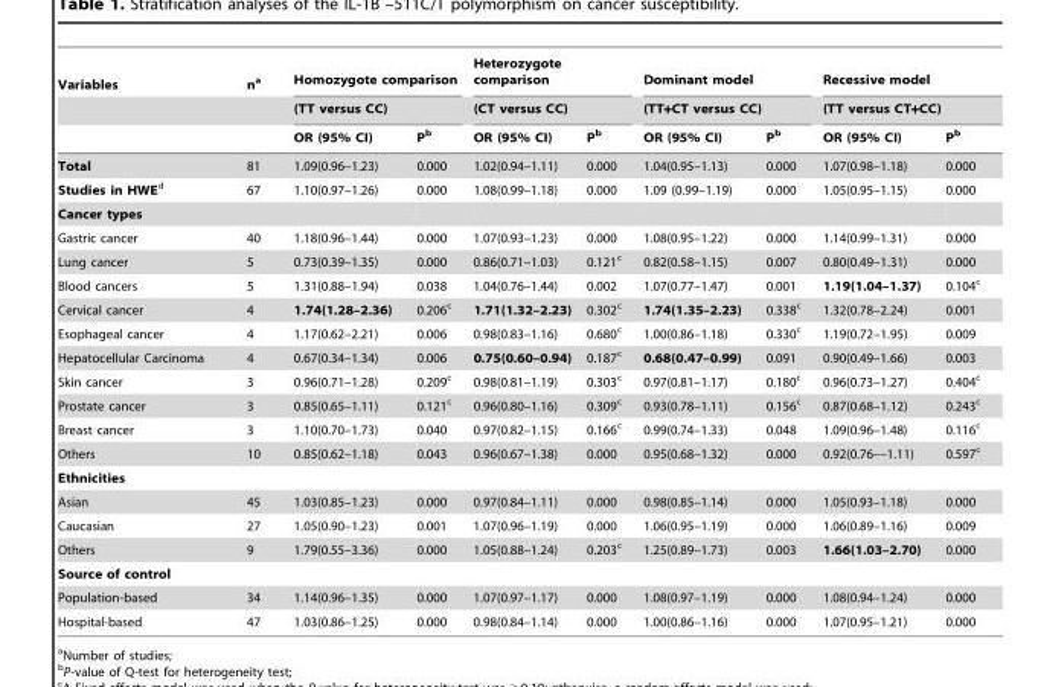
<table><thead><tr><td rowspan="3">Variables</td><td rowspan="3">n<sup>a</sup></td><td rowspan="2" colspan="2">Homozygote comparison (TT versus CC)</td><td rowspan="2" colspan="2">Heterozygote comparison (CT versus CC)</td><td rowspan="2" colspan="2">Dominant model (TT+CT versus CC)</td><td rowspan="2" colspan="2">Recessive model (TT versus CT+CC)</td></tr><tr></tr><tr><td>OR (95% CI)</td><td>P<sup>b</sup></td><td>OR (95% CI)</td><td>P<sup>b</sup></td><td>OR (95% CI)</td><td>P<sup>b</sup></td><td>OR (95% CI)</td><td>P<sup>b</sup></td></tr></thead><tbody><tr><td>Total</td><td>81</td><td>1.09(0.96–1.23)</td><td>0.000</td><td>1.02(0.94–1.11)</td><td>0.000</td><td>1.04(0.95–1.13)</td><td>0.000</td><td>1.07(0.98–1.18)</td><td>0.000</td></tr><tr><td>Studies in HWEd</td><td>67</td><td>1.10(0.97–1.26)</td><td>0.000</td><td>1.08(0.99–1.18)</td><td>0.000</td><td>1.09 (0.99–1.19)</td><td>0.000</td><td>1.05(0.95–1.15)</td><td>0.000</td></tr><tr><td colspan="10">Cancer types</td></tr><tr><td>Gastric cancer</td><td>40</td><td>1.18(0.96–1.44)</td><td>0.000</td><td>1.07(0.93–1.23)</td><td>0.000</td><td>1.08(0.95–1.22)</td><td>0.000</td><td>1.14(0.99–1.31)</td><td>0.000</td></tr><tr><td>Lung cancer</td><td>5</td><td>0.73(0.39–1.35)</td><td>0.000</td><td>0.86(0.71–1.03)</td><td>0.121<sup>c</sup></td><td>0.82(0.58–1.15)</td><td>0.007</td><td>0.80(0.49–1.31)</td><td>0.000</td></tr><tr><td>Blood cancers</td><td>5</td><td>1.31(0.88–1.94)</td><td>0.038</td><td>1.04(0.76–1.44)</td><td>0.002</td><td>1.07(0.77–1.47)</td><td>0.001</td><td>1.19(1.04–1.37)</td><td>0.104<sup>c</sup></td></tr><tr><td>Cervical cancer</td><td>4</td><td>1.74(1.28–2.36)</td><td>0.206<sup>c</sup></td><td>1.71(1.32–2.23)</td><td>0.302<sup>c</sup></td><td>1.74(1.35–2.23)</td><td>0.338<sup>c</sup></td><td>1.32(0.78–2.24)</td><td>0.001</td></tr><tr><td>Esophageal cancer</td><td>4</td><td>1.17(0.62–2.21)</td><td>0.006</td><td>0.98(0.83–1.16)</td><td>0.680<sup>c</sup></td><td>1.00(0.86–1.18)</td><td>0.330<sup>c</sup></td><td>1.19(0.72–1.95)</td><td>0.009</td></tr><tr><td>Hepatocellular Carcinoma</td><td>4</td><td>0.67(0.34–1.34)</td><td>0.006</td><td>0.75(0.60–0.94)</td><td>0.187<sup>c</sup></td><td>0.68(0.47–0.99)</td><td>0.091</td><td>0.90(0.49–1.66)</td><td>0.003</td></tr><tr><td>Skin cancer</td><td>3</td><td>0.96(0.71–1.28)</td><td>0.209<sup>c</sup></td><td>0.98(0.81–1.19)</td><td>0.303<sup>c</sup></td><td>0.97(0.81–1.17)</td><td>0.180<sup>c</sup></td><td>0.96(0.73–1.27)</td><td>0.404<sup>c</sup></td></tr><tr><td>Prostate cancer</td><td>3</td><td>0.85(0.65–1.11)</td><td>0.121<sup>c</sup></td><td>0.96(0.80–1.16)</td><td>0.309<sup>c</sup></td><td>0.93(0.78–1.11)</td><td>0.156<sup>c</sup></td><td>0.87(0.68–1.12)</td><td>0.243<sup>c</sup></td></tr><tr><td>Breast cancer</td><td>3</td><td>1.10(0.70–1.73)</td><td>0.040</td><td>0.97(0.82–1.15)</td><td>0.166<sup>c</sup></td><td>0.99(0.74–1.33)</td><td>0.048</td><td>1.09(0.96–1.48)</td><td>0.116<sup>c</sup></td></tr><tr><td>Others</td><td>10</td><td>0.85(0.62–1.18)</td><td>0.043</td><td>0.96(0.67–1.38)</td><td>0.000</td><td>0.95(0.68–1.32)</td><td>0.000</td><td>0.92(0.76––1.11)</td><td>0.597<sup>c</sup></td></tr><tr><td colspan="10">Ethnicities</td></tr><tr><td>Asian</td><td>45</td><td>1.03(0.85–1.23)</td><td>0.000</td><td>0.97(0.84–1.11)</td><td>0.000</td><td>0.98(0.85–1.14)</td><td>0.000</td><td>1.05(0.93–1.18)</td><td>0.000</td></tr><tr><td>Caucasian</td><td>27</td><td>1.05(0.90–1.23)</td><td>0.001</td><td>1.07(0.96–1.19)</td><td>0.000</td><td>1.06(0.95–1.19)</td><td>0.000</td><td>1.06(0.89–1.16)</td><td>0.009</td></tr><tr><td>Others</td><td>9</td><td>1.79(0.55–3.36)</td><td>0.000</td><td>1.05(0.88–1.24)</td><td>0.203<sup>c</sup></td><td>1.25(0.89–1.73)</td><td>0.003</td><td>1.66(1.03–2.70)</td><td>0.000</td></tr><tr><td colspan="10">Source of control</td></tr><tr><td>Population-based</td><td>34</td><td>1.14(0.96–1.35)</td><td>0.000</td><td>1.07(0.97–1.17)</td><td>0.000</td><td>1.08(0.97–1.19)</td><td>0.000</td><td>1.08(0.94–1.24)</td><td>0.000</td></tr><tr><td>Hospital-based</td><td>47</td><td>1.03(0.86–1.25)</td><td>0.000</td><td>0.98(0.84–1.14)</td><td>0.000</td><td>1.00(0.86–1.16)</td><td>0.000</td><td>1.07(0.95–1.21)</td><td>0.000</td></tr></tbody></table>